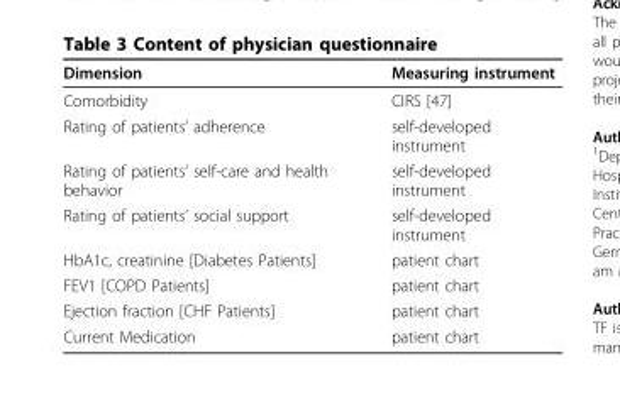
<table><thead><tr><td>Dimension</td><td>Measuring instrument</td></tr></thead><tbody><tr><td>Comorbidity</td><td>CIRS [47]</td></tr><tr><td>Rating of patients’ adherence</td><td>self-developed instrument</td></tr><tr><td>Rating of patients’ self-care and health behavior</td><td>self-developed instrument</td></tr><tr><td>Rating of patients’ social support</td><td>self-developed instrument</td></tr><tr><td>HbA1c, creatinine [Diabetes Patients]</td><td>patient chart</td></tr><tr><td>FEV1 [COPD Patients]</td><td>patient chart</td></tr><tr><td>Ejection fraction [CHF Patients]</td><td>patient chart</td></tr><tr><td>Current Medication</td><td>patient chart</td></tr></tbody></table>